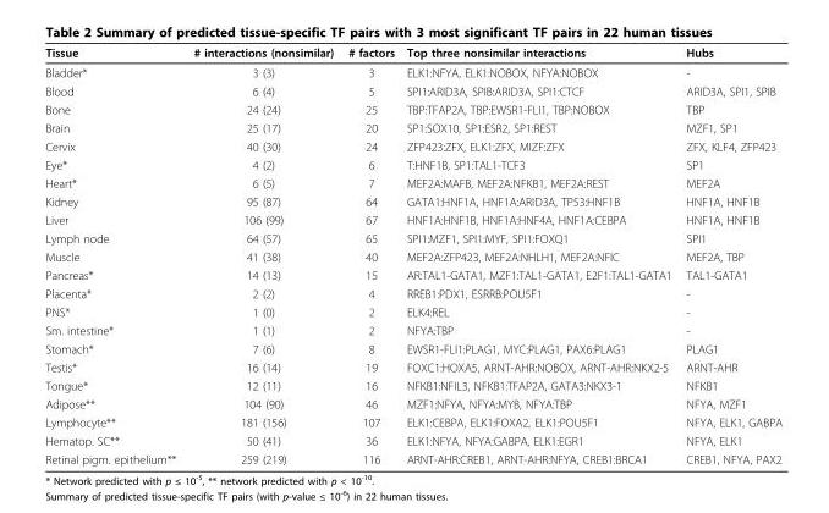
<table><thead><tr><td>Tissue</td><td># interactions (nonsimilar)</td><td># factors</td><td>Top three nonsimilar interactions</td><td>Hubs</td></tr></thead><tbody><tr><td>Bladder*</td><td>3 (3)</td><td>3</td><td>ELK1:NFYA, ELK1:NOBOX, NFYA:NOBOX</td><td>-</td></tr><tr><td>Blood</td><td>6 (4)</td><td>5</td><td>SPI1:ARID3A, SPIB:ARID3A, SPI1:CTCF</td><td>ARID3A, SPI1, SPIB</td></tr><tr><td>Bone</td><td>24 (24)</td><td>25</td><td>TBP:TFAP2A, TBP:EWSR1-FLI1, TBP:NOBOX</td><td>TBP</td></tr><tr><td>Brain</td><td>25 (17)</td><td>20</td><td>SP1:SOX10, SP1:ESR2, SP1:REST</td><td>MZF1, SP1</td></tr><tr><td>Cervix</td><td>40 (30)</td><td>24</td><td>ZFP423:ZFX, ELK1:ZFX, MIZF:ZFX</td><td>ZFX, KLF4, ZFP423</td></tr><tr><td>Eye*</td><td>4 (2)</td><td>6</td><td>T:HNF1B, SP1:TAL1-TCF3</td><td>SP1</td></tr><tr><td>Heart*</td><td>6 (5)</td><td>7</td><td>MEF2A:MAFB, MEF2A:NFKB1, MEF2A:REST</td><td>MEF2A</td></tr><tr><td>Kidney</td><td>95 (87)</td><td>64</td><td>GATA1:HNF1A, HNF1A:ARID3A, TP53:HNF1B</td><td>HNF1A, HNF1B</td></tr><tr><td>Liver</td><td>106 (99)</td><td>67</td><td>HNF1A:HNF1B, HNF1A:HNF4A, HNF1A:CEBPA</td><td>HNF1A, HNF1B</td></tr><tr><td>Lymph node</td><td>64 (57)</td><td>65</td><td>SPI1:MZF1, SPI1:MYF, SPI1:FOXQ1</td><td>SPI1</td></tr><tr><td>Muscle</td><td>41 (38)</td><td>40</td><td>MEF2A:ZFP423, MEF2A:NHLH1, MEF2A:NFIC</td><td>MEF2A, TBP</td></tr><tr><td>Pancreas*</td><td>14 (13)</td><td>15</td><td>AR:TAL1-GATA1, MZF1:TAL1-GATA1, E2F1:TAL1-GATA1</td><td>TAL1-GATA1</td></tr><tr><td>Placenta*</td><td>2 (2)</td><td>4</td><td>RREB1:PDX1, ESRRB:POU5F1</td><td>-</td></tr><tr><td>PNS*</td><td>1 (0)</td><td>2</td><td>ELK4:REL</td><td>-</td></tr><tr><td>Sm. intestine*</td><td>1 (1)</td><td>2</td><td>NFYA:TBP</td><td>-</td></tr><tr><td>Stomach*</td><td>7 (6)</td><td>8</td><td>EWSR1-FLI1:PLAG1, MYC:PLAG1, PAX6:PLAG1</td><td>PLAG1</td></tr><tr><td>Testis*</td><td>16 (14)</td><td>19</td><td>FOXC1:HOXA5, ARNT-AHR:NOBOX, ARNT-AHR:NKX2-5</td><td>ARNT-AHR</td></tr><tr><td>Tongue*</td><td>12 (11)</td><td>16</td><td>NFKB1:NFIL3, NFKB1:TFAP2A, GATA3:NKX3-1</td><td>NFKB1</td></tr><tr><td>Adipose**</td><td>104 (90)</td><td>46</td><td>MZF1:NFYA, NFYA:MYB, NFYA:TBP</td><td>NFYA, MZF1</td></tr><tr><td>Lymphocyte**</td><td>181 (156)</td><td>107</td><td>ELK1:CEBPA, ELK1:FOXA2, ELK1:POU5F1</td><td>NFYA, ELK1, GABPA</td></tr><tr><td>Hematop. SC**</td><td>50 (41)</td><td>36</td><td>ELK1:NFYA, NFYA:GABPA, ELK1:EGR1</td><td>NFYA, ELK1</td></tr><tr><td>Retinal pigm. epithelium**</td><td>259 (219)</td><td>116</td><td>ARNT-AHR:CREB1, ARNT-AHR:NFYA, CREB1:BRCA1</td><td>CREB1, NFYA, PAX2</td></tr></tbody></table>